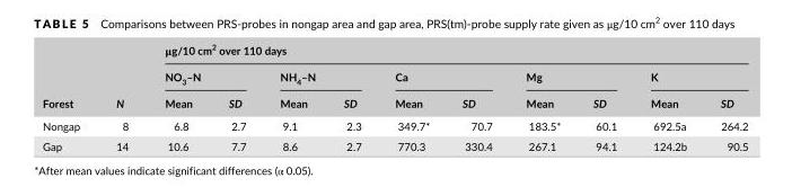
<table><thead><tr><td rowspan="3">Forest</td><td rowspan="3">N</td><td colspan="10">μg/10 cm<sup>2</sup> over 110 days</td></tr><tr><td colspan="2">NO<sub>3</sub>–N</td><td colspan="2">NH<sub>4</sub>–N</td><td colspan="2">Ca</td><td colspan="2">Mg</td><td colspan="2">K</td></tr><tr><td>Mean</td><td>SD</td><td>Mean</td><td>SD</td><td>Mean</td><td>SD</td><td>Mean</td><td>SD</td><td>Mean</td><td>SD</td></tr></thead><tbody><tr><td>Nongap</td><td>8</td><td>6.8</td><td>2.7</td><td>9.1</td><td>2.3</td><td>349.7*</td><td>70.7</td><td>183.5*</td><td>60.1</td><td>692.5a</td><td>264.2</td></tr><tr><td>Gap</td><td>14</td><td>10.6</td><td>7.7</td><td>8.6</td><td>2.7</td><td>770.3</td><td>330.4</td><td>267.1</td><td>94.1</td><td>124.2b</td><td>90.5</td></tr></tbody></table>